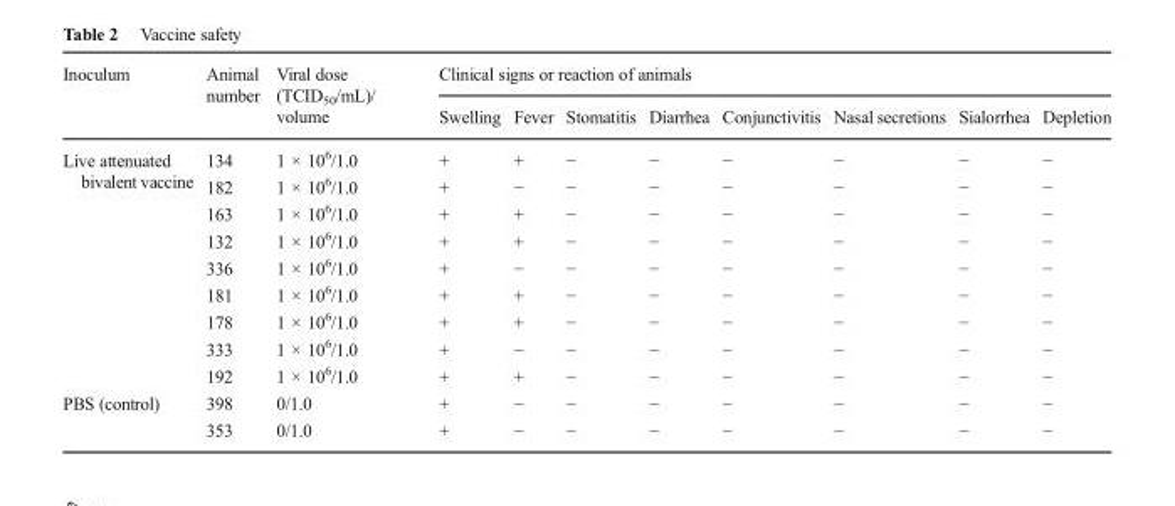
<table><thead><tr><td rowspan="2">Inoculum</td><td rowspan="2">Animal number</td><td rowspan="2">Viral dose (TCID<sub>50</sub>/mL)/ volume</td><td colspan="8">Clinical signs or reaction of animals</td></tr><tr><td>Swelling</td><td>Fever</td><td>Stomatitis</td><td>Diarrhea</td><td>Conjunctivitis</td><td>Nasal secretions</td><td>Sialorrhea</td><td>Depletion</td></tr></thead><tbody><tr><td rowspan="9">Live attenuated bivalent vaccine</td><td>134</td><td>1 × 10<sup>6</sup>/1.0</td><td>+</td><td>+</td><td>−</td><td>−</td><td>−</td><td>−</td><td>−</td><td>−</td></tr><tr><td>182</td><td>1 × 10<sup>6</sup>/1.0</td><td>+</td><td>−</td><td>−</td><td>−</td><td>−</td><td>−</td><td>−</td><td>−</td></tr><tr><td>163</td><td>1 × 10<sup>6</sup>/1.0</td><td>+</td><td>+</td><td>−</td><td>−</td><td>−</td><td>−</td><td>−</td><td>−</td></tr><tr><td>132</td><td>1 × 10<sup>6</sup>/1.0</td><td>+</td><td>+</td><td>−</td><td>−</td><td>−</td><td>−</td><td>−</td><td>−</td></tr><tr><td>336</td><td>1 × 10<sup>6</sup>/1.0</td><td>+</td><td>−</td><td>−</td><td>−</td><td>−</td><td>−</td><td>−</td><td>−</td></tr><tr><td>181</td><td>1 × 10<sup>6</sup>/1.0</td><td>+</td><td>+</td><td>−</td><td>−</td><td>−</td><td>−</td><td>−</td><td>−</td></tr><tr><td>178</td><td>1 × 10<sup>6</sup>/1.0</td><td>+</td><td>+</td><td>−</td><td>−</td><td>−</td><td>−</td><td>−</td><td>−</td></tr><tr><td>333</td><td>1 × 10<sup>6</sup>/1.0</td><td>+</td><td>−</td><td>−</td><td>−</td><td>−</td><td>−</td><td>−</td><td>−</td></tr><tr><td>192</td><td>1 × 10<sup>6</sup>/1.0</td><td>+</td><td>+</td><td>−</td><td>−</td><td>−</td><td>−</td><td>−</td><td>−</td></tr><tr><td rowspan="2">PBS (control)</td><td>398</td><td>0/1.0</td><td>+</td><td>−</td><td>−</td><td>−</td><td>−</td><td>−</td><td>−</td><td>−</td></tr><tr><td>353</td><td>0/1.0</td><td>+</td><td>−</td><td>−</td><td>−</td><td>−</td><td>−</td><td>−</td><td>−</td></tr></tbody></table>